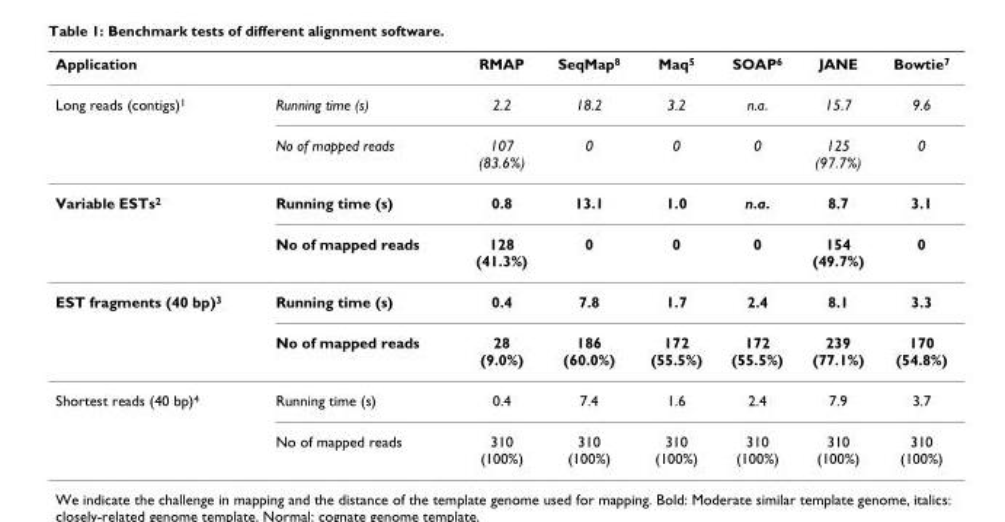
<table><thead><tr><td colspan="2">Application</td><td rowspan="2">RMAP 2.2</td><td rowspan="2">SeqMap8 18.2</td><td rowspan="2">Maq5 3.2</td><td rowspan="2">SOAP6 n.a.</td><td rowspan="2">JANE 15.7</td><td rowspan="2">Bowtie7 9.6</td></tr><tr><td>Long reads (contigs)1</td><td>Running time (s)</td></tr></thead><tbody><tr><td></td><td>No of mapped reads</td><td>107 (83.6%)</td><td>0</td><td>0</td><td>0</td><td>125 (97.7%)</td><td>0</td></tr><tr><td rowspan="2">Variable ESTs<sup>2</sup></td><td>Running time (s)</td><td>0.8</td><td>13.1</td><td>1.0</td><td>n.a.</td><td>8.7</td><td>3.1</td></tr><tr><td>No of mapped reads</td><td>128 (41.3%)</td><td>0</td><td>0</td><td>0</td><td>154 (49.7%)</td><td>0</td></tr><tr><td rowspan="2">EST fragments (40 bp)<sup>3</sup></td><td>Running time (s)</td><td>0.4</td><td>7.8</td><td>1.7</td><td>2.4</td><td>8.1</td><td>3.3</td></tr><tr><td>No of mapped reads</td><td>28 (9.0%)</td><td>186 (60.0%)</td><td>172 (55.5%)</td><td>172 (55.5%)</td><td>239 (77.1%)</td><td>170 (54.8%)</td></tr><tr><td rowspan="2">Shortest reads (40 bp)<sup>4</sup></td><td>Running time (s)</td><td>0.4</td><td>7.4</td><td>1.6</td><td>2.4</td><td>7.9</td><td>3.7</td></tr><tr><td>No of mapped reads</td><td>310 (100%)</td><td>310 (100%)</td><td>310 (100%)</td><td>310 (100%)</td><td>310 (100%)</td><td>310 (100%)</td></tr></tbody></table>